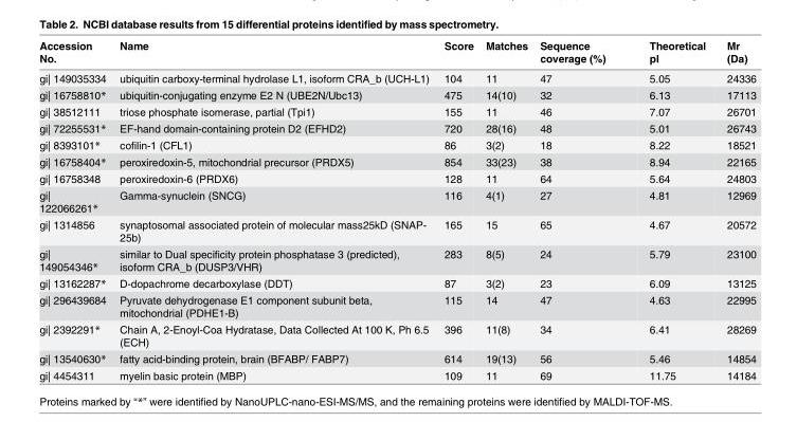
<table><thead><tr><td>Accession No.</td><td>Name</td><td>Score</td><td>Matches</td><td>Sequence coverage (%)</td><td>Theoretical pI</td><td>Mr (Da)</td></tr></thead><tbody><tr><td>gi| 149035334</td><td>ubiquitin carboxy-terminal hydrolase L1, isoform CRA_b (UCH-L1)</td><td>104</td><td>11</td><td>47</td><td>5.05</td><td>24336</td></tr><tr><td>gi| 16758810*</td><td>ubiquitin-conjugating enzyme E2 N (UBE2N/Ubc13)</td><td>475</td><td>14(10)</td><td>32</td><td>6.13</td><td>17113</td></tr><tr><td>gi| 38512111</td><td>triose phosphate isomerase, partial (Tpi1)</td><td>155</td><td>11</td><td>46</td><td>7.07</td><td>26701</td></tr><tr><td>gi| 72255531*</td><td>EF-hand domain-containing protein D2 (EFHD2)</td><td>720</td><td>28(16)</td><td>48</td><td>5.01</td><td>26743</td></tr><tr><td>gi| 8393101*</td><td>cofilin-1 (CFL1)</td><td>86</td><td>3(2)</td><td>18</td><td>8.22</td><td>18521</td></tr><tr><td>gi| 16758404*</td><td>peroxiredoxin-5, mitochondrial precursor (PRDX5)</td><td>854</td><td>33(23)</td><td>38</td><td>8.94</td><td>22165</td></tr><tr><td>gi| 16758348</td><td>peroxiredoxin-6 (PRDX6)</td><td>128</td><td>11</td><td>64</td><td>5.64</td><td>24803</td></tr><tr><td>gi| 122066261*</td><td>Gamma-synuclein (SNCG)</td><td>116</td><td>4(1)</td><td>27</td><td>4.81</td><td>12969</td></tr><tr><td>gi| 1314856</td><td>synaptosomal associated protein of molecular mass25kD (SNAP- 25b)</td><td>165</td><td>15</td><td>65</td><td>4.67</td><td>20572</td></tr><tr><td>gi| 149054346*</td><td>similar to Dual specificity protein phosphatase 3 (predicted), isoform CRA_b (DUSP3/VHR)</td><td>283</td><td>8(5)</td><td>24</td><td>5.79</td><td>23100</td></tr><tr><td>gi| 13162287*</td><td>D-dopachrome decarboxylase (DDT)</td><td>87</td><td>3(2)</td><td>23</td><td>6.09</td><td>13125</td></tr><tr><td>gi| 296439684</td><td>Pyruvate dehydrogenase E1 component subunit beta, mitochondrial (PDHE1-B)</td><td>115</td><td>14</td><td>47</td><td>4.63</td><td>22995</td></tr><tr><td>gi| 2392291*</td><td>Chain A, 2-Enoyl-Coa Hydratase, Data Collected At 100 K, Ph 6.5 (ECH)</td><td>396</td><td>11(8)</td><td>34</td><td>6.41</td><td>28269</td></tr><tr><td>gi| 13540630*</td><td>fatty acid-binding protein, brain (BFABP/ FABP7)</td><td>614</td><td>19(13)</td><td>56</td><td>5.46</td><td>14854</td></tr><tr><td>gi| 4454311</td><td>myelin basic protein (MBP)</td><td>109</td><td>11</td><td>69</td><td>11.75</td><td>14184</td></tr></tbody></table>